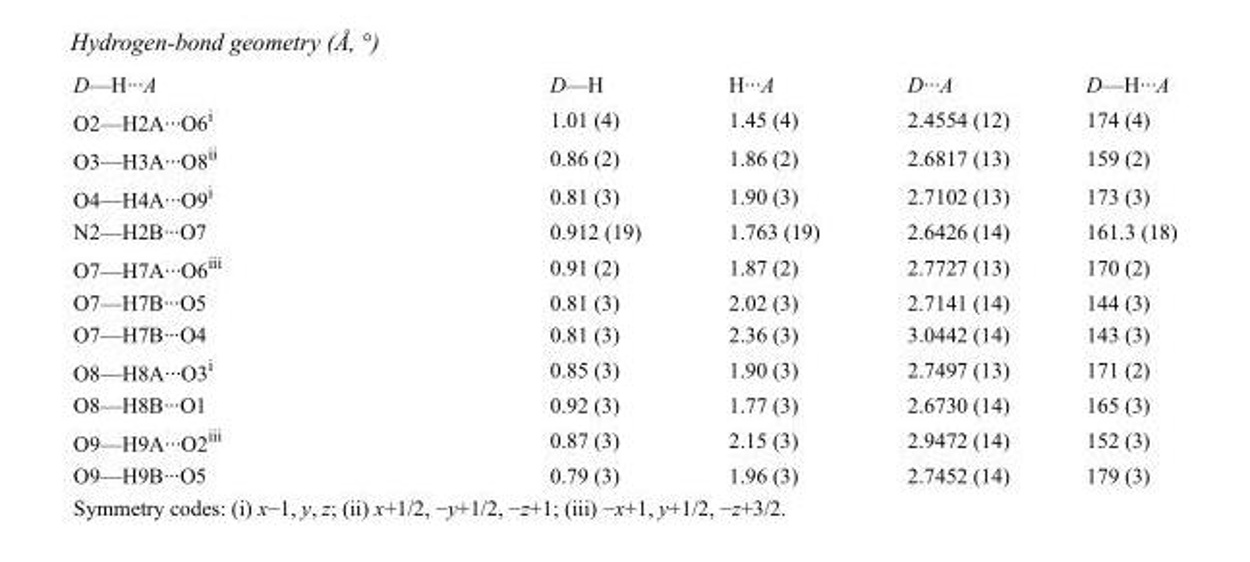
<table><tbody><tr><td>D—H···A</td><td>D—H</td><td>H···A</td><td>D···A</td><td>D—H···A</td></tr><tr><td>O2—H2A···O6<sup>i</sup></td><td>1.01 (4)</td><td>1.45 (4)</td><td>2.4554 (12)</td><td>174 (4)</td></tr><tr><td>O3—H3A···O8<sup>ii</sup></td><td>0.86 (2)</td><td>1.86 (2)</td><td>2.6817 (13)</td><td>159 (2)</td></tr><tr><td>O4—H4A···O9<sup>i</sup></td><td>0.81 (3)</td><td>1.90 (3)</td><td>2.7102 (13)</td><td>173 (3)</td></tr><tr><td>N2—H2B···O7</td><td>0.912 (19)</td><td>1.763 (19)</td><td>2.6426 (14)</td><td>161.3 (18)</td></tr><tr><td>O7—H7A···O6<sup>iii</sup></td><td>0.91 (2)</td><td>1.87 (2)</td><td>2.7727 (13)</td><td>170 (2)</td></tr><tr><td>O7—H7B···O5</td><td>0.81 (3)</td><td>2.02 (3)</td><td>2.7141 (14)</td><td>144 (3)</td></tr><tr><td>O7—H7B···O4</td><td>0.81 (3)</td><td>2.36 (3)</td><td>3.0442 (14)</td><td>143 (3)</td></tr><tr><td>O8—H8A···O3<sup>i</sup></td><td>0.85 (3)</td><td>1.90 (3)</td><td>2.7497 (13)</td><td>171 (2)</td></tr><tr><td>O8—H8B···O1</td><td>0.92 (3)</td><td>1.77 (3)</td><td>2.6730 (14)</td><td>165 (3)</td></tr><tr><td>O9—H9A···O2<sup>iii</sup></td><td>0.87 (3)</td><td>2.15 (3)</td><td>2.9472 (14)</td><td>152 (3)</td></tr><tr><td>O9—H9B···O5</td><td>0.79 (3)</td><td>1.96 (3)</td><td>2.7452 (14)</td><td>179 (3)</td></tr></tbody></table>